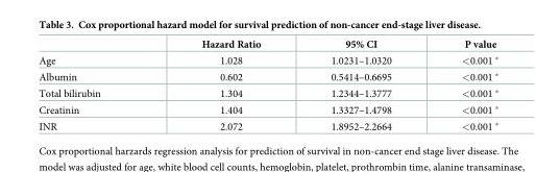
<table><thead><tr><td></td><td>Hazard Ratio</td><td>95% CI</td><td>P value</td></tr></thead><tbody><tr><td>Age</td><td>1.028</td><td>1.0231–1.0320</td><td>&lt;0.001</td></tr><tr><td>Albumin</td><td>0.602</td><td>0.5414–0.6695</td><td>&lt;0.001</td></tr><tr><td>Total bilirubin</td><td>1.304</td><td>1.2344–1.3777</td><td>&lt;0.001</td></tr><tr><td>Creatinin</td><td>1.404</td><td>1.3327–1.4798</td><td>&lt;0.001</td></tr><tr><td>INR</td><td>2.072</td><td>1.8952–2.2664</td><td>&lt;0.001</td></tr></tbody></table>